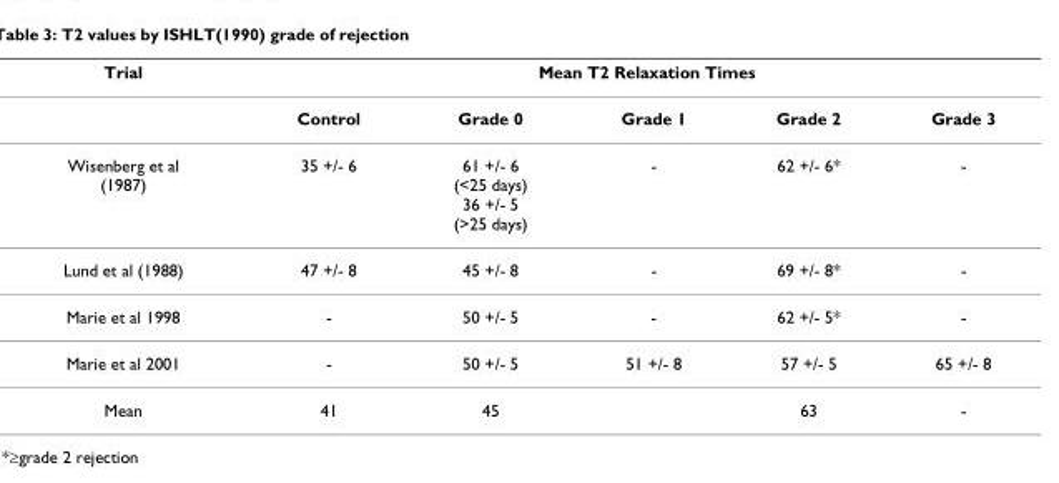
<table><thead><tr><td rowspan="2">Trial</td><td colspan="5">Mean T2 Relaxation Times</td></tr><tr><td>Control</td><td>Grade 0</td><td>Grade 1</td><td>Grade 2</td><td>Grade 3</td></tr></thead><tbody><tr><td>Wisenberg et al (1987)</td><td>35 +/- 6</td><td>61 +/- 6 (&lt;25 days) 36 +/- 5 (&gt;25 days)</td><td>-</td><td>62 +/- 6*</td><td>-</td></tr><tr><td>Lund et al (1988)</td><td>47 +/- 8</td><td>45 +/- 8</td><td>-</td><td>69 +/- 8*</td><td>-</td></tr><tr><td>Marie et al 1998</td><td>-</td><td>50 +/- 5</td><td>-</td><td>62 +/- 5*</td><td>-</td></tr><tr><td>Marie et al 2001</td><td>-</td><td>50 +/- 5</td><td>51 +/- 8</td><td>57 +/- 5</td><td>65 +/- 8</td></tr><tr><td>Mean</td><td>41</td><td>45</td><td></td><td>63</td><td>-</td></tr></tbody></table>